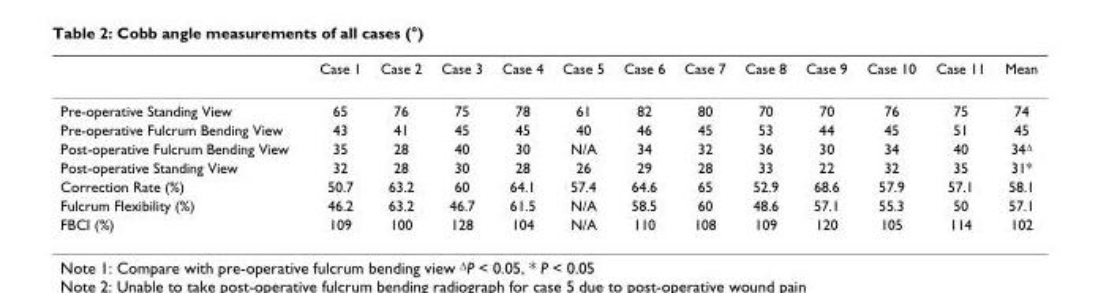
<table><thead><tr><td></td><td>Case 1</td><td>Case 2</td><td>Case 3</td><td>Case 4</td><td>Case 5</td><td>Case 6</td><td>Case 7</td><td>Case 8</td><td>Case 9</td><td>Case 10</td><td>Case 11</td><td>Mean</td></tr></thead><tbody><tr><td>Pre-operative Standing View</td><td>65</td><td>76</td><td>75</td><td>78</td><td>61</td><td>82</td><td>80</td><td>70</td><td>70</td><td>76</td><td>75</td><td>74</td></tr><tr><td>Pre-operative Fulcrum Bending View</td><td>43</td><td>41</td><td>45</td><td>45</td><td>40</td><td>46</td><td>45</td><td>53</td><td>44</td><td>45</td><td>51</td><td>45</td></tr><tr><td>Post-operative Fulcrum Bending View</td><td>35</td><td>28</td><td>40</td><td>30</td><td>N/A</td><td>34</td><td>32</td><td>36</td><td>30</td><td>34</td><td>40</td><td>34<sup>Δ</sup></td></tr><tr><td>Post-operative Standing View</td><td>32</td><td>28</td><td>30</td><td>28</td><td>26</td><td>29</td><td>28</td><td>33</td><td>22</td><td>32</td><td>35</td><td>31*</td></tr><tr><td>Correction Rate (%)</td><td>50.7</td><td>63.2</td><td>60</td><td>64.1</td><td>57.4</td><td>64.6</td><td>65</td><td>52.9</td><td>68.6</td><td>57.9</td><td>57.1</td><td>58.1</td></tr><tr><td>Fulcrum Flexibility (%)</td><td>46.2</td><td>63.2</td><td>46.7</td><td>61.5</td><td>N/A</td><td>58.5</td><td>60</td><td>48.6</td><td>57.1</td><td>55.3</td><td>50</td><td>57.1</td></tr><tr><td>FBCI (%)</td><td>109</td><td>100</td><td>128</td><td>104</td><td>N/A</td><td>110</td><td>108</td><td>109</td><td>120</td><td>105</td><td>114</td><td>102</td></tr></tbody></table>